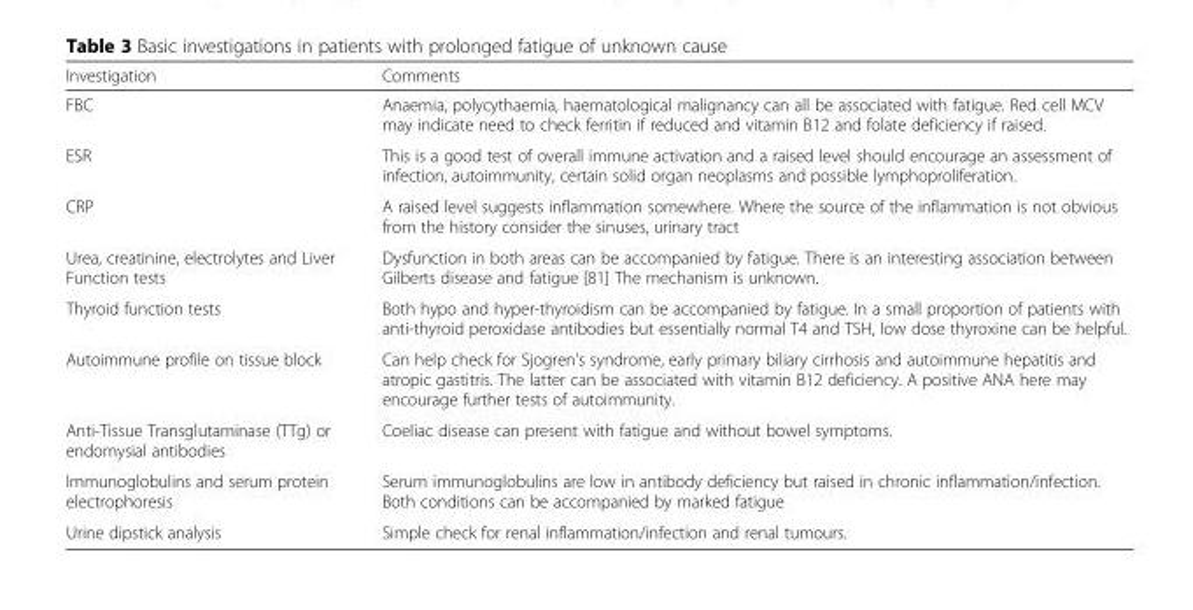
<table><thead><tr><td>Investigation</td><td>Comments</td></tr></thead><tbody><tr><td>FBC</td><td>Anaemia, polycythaemia, haematological malignancy can all be associated with fatigue. Red cell MCV may indicate need to check ferritin if reduced and vitamin B12 and folate deficiency if raised.</td></tr><tr><td>ESR</td><td>This is a good test of overall immune activation and a raised level should encourage an assessment of infection, autoimmunity, certain solid organ neoplasms and possible lymphoproliferation.</td></tr><tr><td>CRP</td><td>A raised level suggests inflammation somewhere. Where the source of the inflammation is not obvious from the history consider the sinuses, urinary tract</td></tr><tr><td>Urea, creatinine, electrolytes and Liver Function tests</td><td>Dysfunction in both areas can be accompanied by fatigue. There is an interesting association between Gilberts disease and fatigue [81] The mechanism is unknown.</td></tr><tr><td>Thyroid function tests</td><td>Both hypo and hyper-thyroidism can be accompanied by fatigue. In a small proportion of patients with anti-thyroid peroxidase antibodies but essentially normal T4 and TSH, low dose thyroxine can be helpful.</td></tr><tr><td>Autoimmune profile on tissue block</td><td>Can help check for Sjogren’s syndrome, early primary biliary cirrhosis and autoimmune hepatitis and atropic gastitris. The latter can be associated with vitamin B12 deficiency. A positive ANA here may encourage further tests of autoimmunity.</td></tr><tr><td>Anti-Tissue Transglutaminase (TTg) or endomysial antibodies</td><td>Coeliac disease can present with fatigue and without bowel symptoms.</td></tr><tr><td>Immunoglobulins and serum protein electrophoresis</td><td>Serum immunoglobulins are low in antibody deficiency but raised in chronic inflammation/infection. Both conditions can be accompanied by marked fatigue</td></tr><tr><td>Urine dipstick analysis</td><td>Simple check for renal inflammation/infection and renal tumours.</td></tr></tbody></table>